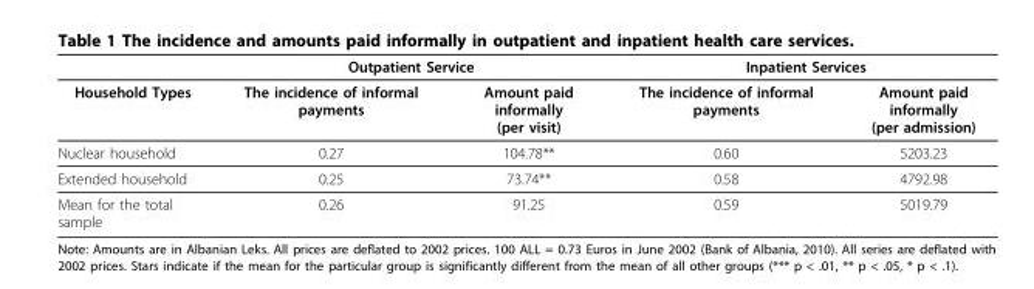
<table><thead><tr><td rowspan="2">Household Types</td><td colspan="2">Outpatient Service</td><td colspan="2">Inpatient Services</td></tr><tr><td>The incidence of informal payments</td><td>Amount paid informally (per visit)</td><td>The incidence of informal payments</td><td>Amount paid informally (per admission)</td></tr></thead><tbody><tr><td>Nuclear household</td><td>0.27</td><td>104.78**</td><td>0.60</td><td>5203.23</td></tr><tr><td>Extended household</td><td>0.25</td><td>73.74**</td><td>0.58</td><td>4792.98</td></tr><tr><td>Mean for the total sample</td><td>0.26</td><td>91.25</td><td>0.59</td><td>5019.79</td></tr></tbody></table>